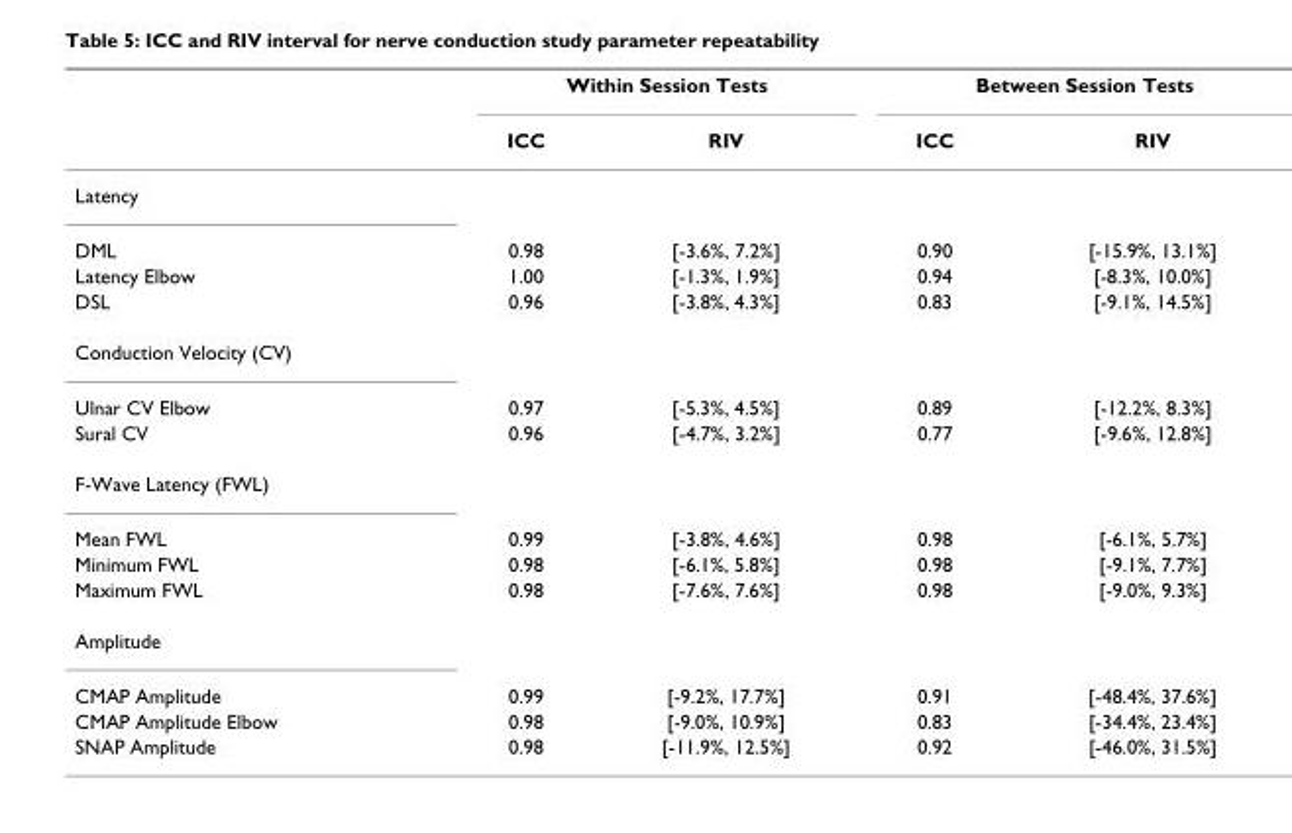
<table><thead><tr><td rowspan="2"></td><td colspan="2">Within Session Tests</td><td colspan="2">Between Session Tests</td></tr><tr><td>ICC</td><td>RIV</td><td>ICC</td><td>RIV</td></tr></thead><tbody><tr><td colspan="5">Latency</td></tr><tr><td>DML</td><td>0.98</td><td>[-3.6%, 7.2%]</td><td>0.90</td><td>[-15.9%, 13.1%]</td></tr><tr><td>Latency Elbow</td><td>1.00</td><td>[-1.3%, 1.9%]</td><td>0.94</td><td>[-8.3%, 10.0%]</td></tr><tr><td>DSL</td><td>0.96</td><td>[-3.8%, 4.3%]</td><td>0.83</td><td>[-9.1%, 14.5%]</td></tr><tr><td colspan="5">Conduction Velocity (CV)</td></tr><tr><td>Ulnar CV Elbow</td><td>0.97</td><td>[-5.3%, 4.5%]</td><td>0.89</td><td>[-12.2%, 8.3%]</td></tr><tr><td>Sural CV</td><td>0.96</td><td>[-4.7%, 3.2%]</td><td>0.77</td><td>[-9.6%, 12.8%]</td></tr><tr><td colspan="5">F-Wave Latency (FWL)</td></tr><tr><td>Mean FWL</td><td>0.99</td><td>[-3.8%, 4.6%]</td><td>0.98</td><td>[-6.1%, 5.7%]</td></tr><tr><td>Minimum FWL</td><td>0.98</td><td>[-6.1%, 5.8%]</td><td>0.98</td><td>[-9.1%, 7.7%]</td></tr><tr><td>Maximum FWL</td><td>0.98</td><td>[-7.6%, 7.6%]</td><td>0.98</td><td>[-9.0%, 9.3%]</td></tr><tr><td colspan="5">Amplitude</td></tr><tr><td>CMAP Amplitude</td><td>0.99</td><td>[-9.2%, 17.7%]</td><td>0.91</td><td>[-48.4%, 37.6%]</td></tr><tr><td>CMAP Amplitude Elbow</td><td>0.98</td><td>[-9.0%, 10.9%]</td><td>0.83</td><td>[-34.4%, 23.4%]</td></tr><tr><td>SNAP Amplitude</td><td>0.98</td><td>[-11.9%, 12.5%]</td><td>0.92</td><td>[-46.0%, 31.5%]</td></tr></tbody></table>